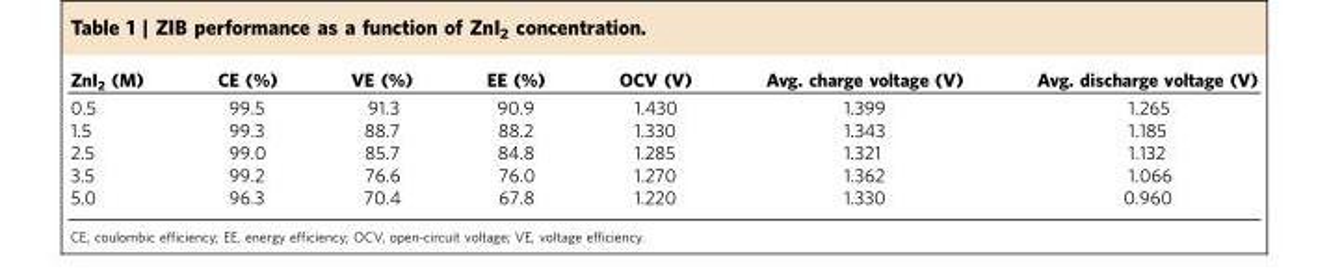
<table><thead><tr><td>ZnI<sub>2</sub> (M)</td><td>CE (%)</td><td>VE (%)</td><td>EE (%)</td><td>OCV (V)</td><td>Avg. charge voltage (V)</td><td>Avg. discharge voltage (V)</td></tr></thead><tbody><tr><td>0.5</td><td>99.5</td><td>91.3</td><td>90.9</td><td>1.430</td><td>1.399</td><td>1.265</td></tr><tr><td>1.5</td><td>99.3</td><td>88.7</td><td>88.2</td><td>1.330</td><td>1.343</td><td>1.185</td></tr><tr><td>2.5</td><td>99.0</td><td>85.7</td><td>84.8</td><td>1.285</td><td>1.321</td><td>1.132</td></tr><tr><td>3.5</td><td>99.2</td><td>76.6</td><td>76.0</td><td>1.270</td><td>1.362</td><td>1.066</td></tr><tr><td>5.0</td><td>96.3</td><td>70.4</td><td>67.8</td><td>1.220</td><td>1.330</td><td>0.960</td></tr></tbody></table>